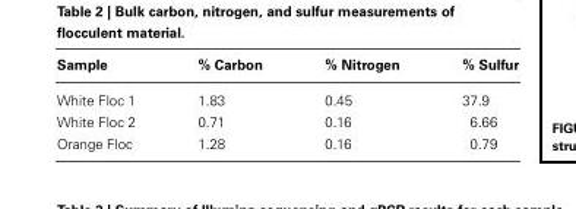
<table><thead><tr><td>Sample</td><td>% Carbon</td><td>% Nitrogen</td><td>% Sulfur</td></tr></thead><tbody><tr><td>White Floc 1</td><td>1.83</td><td>0.45</td><td>37.9</td></tr><tr><td>White Floc 2</td><td>0.71</td><td>0.16</td><td>6.66</td></tr><tr><td>Orange Floc</td><td>1.28</td><td>0.16</td><td>0.79</td></tr></tbody></table>